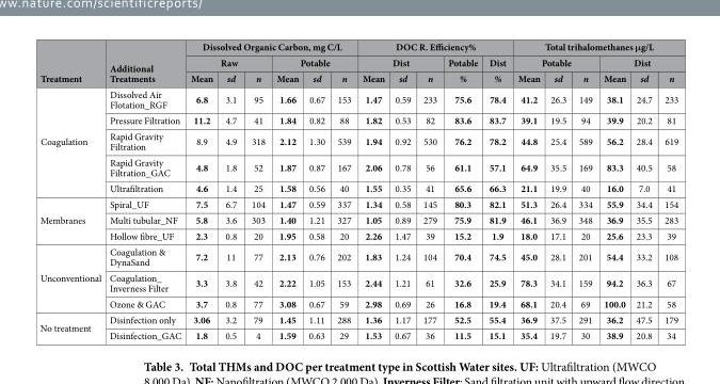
<table><thead><tr><td rowspan="3">Treatment</td><td rowspan="3">Additional Treatments</td><td colspan="6">Dissolved Organic Carbon, mg C/L</td><td colspan="5">DOC R. Efficiency%</td><td colspan="6">Total trihalomethanes μg/L</td></tr><tr><td colspan="3">Raw</td><td colspan="3">Potable</td><td colspan="3">Dist</td><td rowspan="2">Potable %</td><td rowspan="2">Dist %</td><td colspan="3">Potable</td><td colspan="3">Dist</td></tr><tr><td>Mean</td><td>sd</td><td>n</td><td>Mean</td><td>sd</td><td>n</td><td>Mean</td><td>sd</td><td>n</td><td>Mean</td><td>sd</td><td>n</td><td>Mean</td><td>sd</td><td>n</td></tr></thead><tbody><tr><td rowspan="5">Coagulation</td><td>Dissolved Air Flotation_RGF</td><td>6.8</td><td>3.1</td><td>95</td><td>1.66</td><td>0.67</td><td>153</td><td>1.47</td><td>0.59</td><td>233</td><td>75.6</td><td>78.4</td><td>41.2</td><td>26.3</td><td>149</td><td>38.1</td><td>24.7</td><td>233</td></tr><tr><td>Pressure Filtration</td><td>11.2</td><td>4.7</td><td>41</td><td>1.84</td><td>0.82</td><td>88</td><td>1.82</td><td>0.53</td><td>82</td><td>83.6</td><td>83.7</td><td>39.1</td><td>19.5</td><td>94</td><td>39.9</td><td>20.2</td><td>81</td></tr><tr><td>Rapid Gravity Filtration</td><td>8.9</td><td>4.9</td><td>318</td><td>2.12</td><td>1.30</td><td>539</td><td>1.94</td><td>0.92</td><td>530</td><td>76.2</td><td>78.2</td><td>44.8</td><td>25.4</td><td>589</td><td>56.2</td><td>28.4</td><td>619</td></tr><tr><td>Rapid Gravity Filtration_GAC</td><td>4.8</td><td>1.8</td><td>52</td><td>1.87</td><td>0.87</td><td>167</td><td>2.06</td><td>0.78</td><td>56</td><td>61.1</td><td>57.1</td><td>64.9</td><td>35.5</td><td>169</td><td>83.3</td><td>40.5</td><td>58</td></tr><tr><td>Ultrafiltration</td><td>4.6</td><td>1.4</td><td>25</td><td>1.58</td><td>0.56</td><td>40</td><td>1.55</td><td>0.35</td><td>41</td><td>65.6</td><td>66.3</td><td>21.1</td><td>19.9</td><td>40</td><td>16.0</td><td>7.0</td><td>41</td></tr><tr><td rowspan="3">Membranes</td><td>Spiral_UF</td><td>7.5</td><td>6.7</td><td>104</td><td>1.47</td><td>0.59</td><td>337</td><td>1.34</td><td>0.58</td><td>145</td><td>80.3</td><td>82.1</td><td>51.3</td><td>26.4</td><td>334</td><td>55.9</td><td>34.4</td><td>154</td></tr><tr><td>Multi tubular_NF</td><td>5.8</td><td>3.6</td><td>303</td><td>1.40</td><td>1.21</td><td>327</td><td>1.05</td><td>0.89</td><td>279</td><td>75.9</td><td>81.9</td><td>46.1</td><td>36.9</td><td>348</td><td>36.9</td><td>35.5</td><td>283</td></tr><tr><td>Hollow fibre_UF</td><td>2.3</td><td>0.8</td><td>20</td><td>1.95</td><td>0.58</td><td>20</td><td>2.26</td><td>1.47</td><td>39</td><td>15.2</td><td>1.9</td><td>18.0</td><td>17.1</td><td>20</td><td>25.6</td><td>23.3</td><td>39</td></tr><tr><td rowspan="3">Unconventional</td><td>Coagulation &amp; DynaSand</td><td>7.2</td><td>11</td><td>77</td><td>2.13</td><td>0.76</td><td>202</td><td>1.83</td><td>1.24</td><td>104</td><td>70.4</td><td>74.5</td><td>45.0</td><td>28.1</td><td>201</td><td>54.4</td><td>33.2</td><td>108</td></tr><tr><td>Coagulation_ Inverness Filter</td><td>3.3</td><td>3.8</td><td>42</td><td>2.22</td><td>1.05</td><td>153</td><td>2.44</td><td>1.21</td><td>61</td><td>32.6</td><td>25.9</td><td>78.3</td><td>34.1</td><td>159</td><td>94.2</td><td>36.3</td><td>67</td></tr><tr><td>Ozone &amp; GAC</td><td>3.7</td><td>0.8</td><td>77</td><td>3.08</td><td>0.67</td><td>59</td><td>2.98</td><td>0.69</td><td>26</td><td>16.8</td><td>19.4</td><td>68.1</td><td>20.4</td><td>69</td><td>100.0</td><td>21.2</td><td>58</td></tr><tr><td rowspan="2">No treatment</td><td>Disinfection only</td><td>3.06</td><td>3.2</td><td>79</td><td>1.45</td><td>1.11</td><td>288</td><td>1.36</td><td>1.17</td><td>177</td><td>52.5</td><td>55.4</td><td>36.9</td><td>37.5</td><td>291</td><td>36.2</td><td>47.5</td><td>179</td></tr><tr><td>Disinfection_GAC</td><td>1.8</td><td>0.5</td><td>4</td><td>1.59</td><td>0.63</td><td>29</td><td>1.53</td><td>0.67</td><td>36</td><td>11.5</td><td>15.1</td><td>35.4</td><td>19.7</td><td>30</td><td>38.9</td><td>20.8</td><td>34</td></tr></tbody></table>